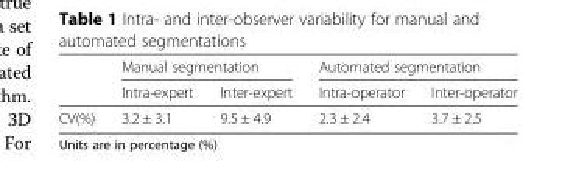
<table><thead><tr><td rowspan="2"></td><td colspan="2">Manual segmentation</td><td colspan="2">Automated segmentation</td></tr><tr><td>Intra-expert</td><td>Inter-expert</td><td>Intra-operator</td><td>Inter-operator</td></tr></thead><tbody><tr><td>CV(%)</td><td>3.2 ± 3.1</td><td>9.5 ± 4.9</td><td>2.3 ± 2.4</td><td>3.7 ± 2.5</td></tr></tbody></table>